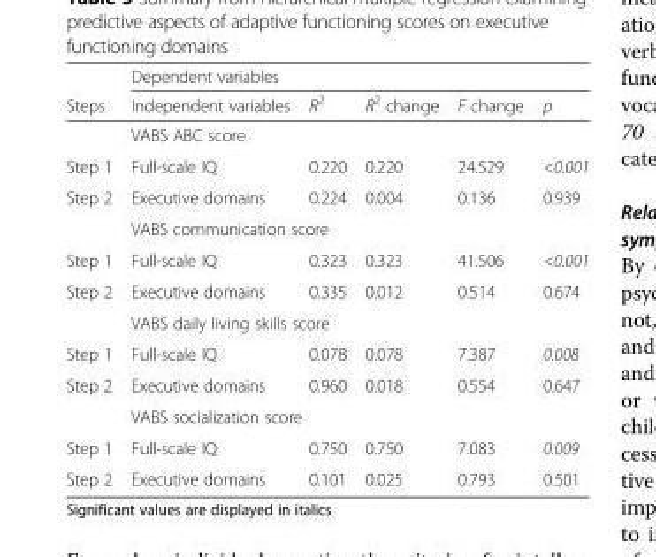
<table><thead><tr><td rowspan="2">Steps</td><td colspan="5">Dependent variables</td></tr><tr><td>Independent variables</td><td>R<sup>2</sup></td><td>R<sup>2</sup> change</td><td>F change</td><td>p</td></tr></thead><tbody><tr><td></td><td colspan="5">VABS ABC score</td></tr><tr><td>Step 1</td><td>Full-scale IQ</td><td>0.220</td><td>0.220</td><td>24.529</td><td>&lt;0.001</td></tr><tr><td rowspan="2">Step 2</td><td>Executive domains</td><td>0.224</td><td>0.004</td><td>0.136</td><td>0.939</td></tr><tr><td colspan="5">VABS communication score</td></tr><tr><td>Step 1</td><td>Full-scale IQ</td><td>0.323</td><td>0.323</td><td>41.506</td><td>&lt;0.001</td></tr><tr><td rowspan="2">Step 2</td><td>Executive domains</td><td>0.335</td><td>0.012</td><td>0.514</td><td>0.674</td></tr><tr><td colspan="5">VABS daily living skills score</td></tr><tr><td>Step 1</td><td>Full-scale IQ</td><td>0.078</td><td>0.078</td><td>7.387</td><td>0.008</td></tr><tr><td rowspan="2">Step 2</td><td>Executive domains</td><td>0.960</td><td>0.018</td><td>0.554</td><td>0.647</td></tr><tr><td colspan="5">VABS socialization score</td></tr><tr><td>Step 1</td><td>Full-scale IQ</td><td>0.750</td><td>0.750</td><td>7.083</td><td>0.009</td></tr><tr><td>Step 2</td><td>Executive domains</td><td>0.101</td><td>0.025</td><td>0.793</td><td>0.501</td></tr></tbody></table>